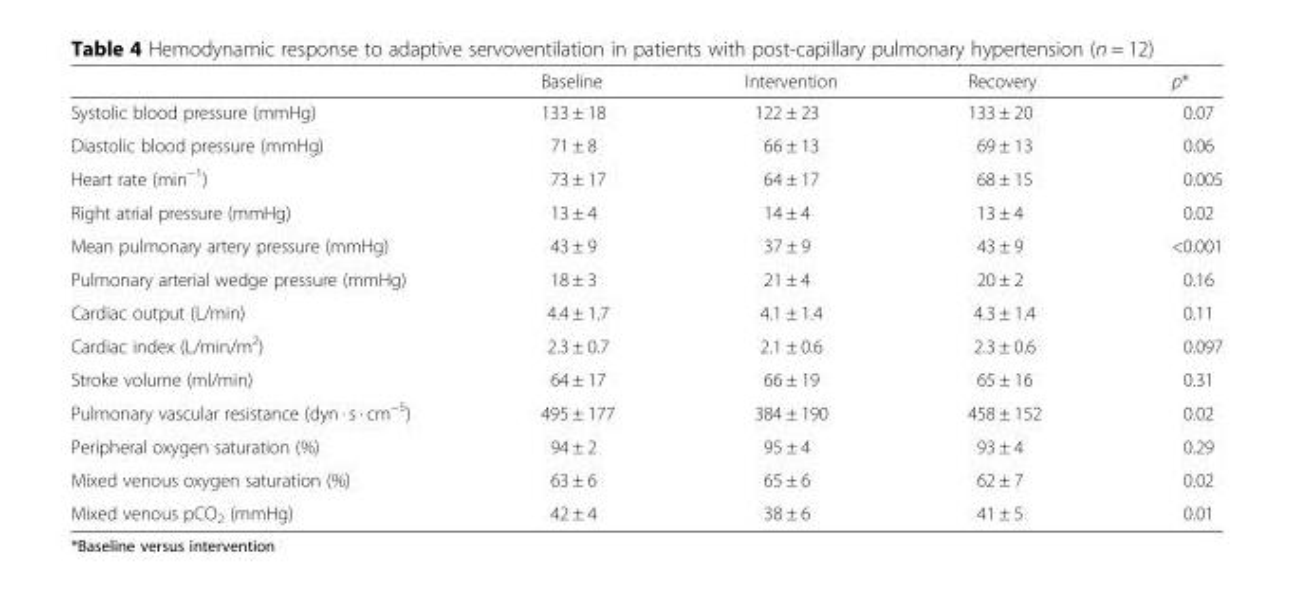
<table><thead><tr><td></td><td>Baseline</td><td>Intervention</td><td>Recovery</td><td>p*</td></tr></thead><tbody><tr><td>Systolic blood pressure (mmHg)</td><td>133 ± 18</td><td>122 ± 23</td><td>133 ± 20</td><td>0.07</td></tr><tr><td>Diastolic blood pressure (mmHg)</td><td>71 ± 8</td><td>66 ± 13</td><td>69 ± 13</td><td>0.06</td></tr><tr><td>Heart rate (min<sup>−1</sup>)</td><td>73 ± 17</td><td>64 ± 17</td><td>68 ± 15</td><td>0.005</td></tr><tr><td>Right atrial pressure (mmHg)</td><td>13 ± 4</td><td>14 ± 4</td><td>13 ± 4</td><td>0.02</td></tr><tr><td>Mean pulmonary artery pressure (mmHg)</td><td>43 ± 9</td><td>37 ± 9</td><td>43 ± 9</td><td>&lt;0.001</td></tr><tr><td>Pulmonary arterial wedge pressure (mmHg)</td><td>18 ± 3</td><td>21 ± 4</td><td>20 ± 2</td><td>0.16</td></tr><tr><td>Cardiac output (L/min)</td><td>4.4 ± 1.7</td><td>4.1 ± 1.4</td><td>4.3 ± 1.4</td><td>0.11</td></tr><tr><td>Cardiac index (L/min/m<sup>2</sup>)</td><td>2.3 ± 0.7</td><td>2.1 ± 0.6</td><td>2.3 ± 0.6</td><td>0.097</td></tr><tr><td>Stroke volume (ml/min)</td><td>64 ± 17</td><td>66 ± 19</td><td>65 ± 16</td><td>0.31</td></tr><tr><td>Pulmonary vascular resistance (dyn · s · cm<sup>−5</sup>)</td><td>495 ± 177</td><td>384 ± 190</td><td>458 ± 152</td><td>0.02</td></tr><tr><td>Peripheral oxygen saturation (%)</td><td>94 ± 2</td><td>95 ± 4</td><td>93 ± 4</td><td>0.29</td></tr><tr><td>Mixed venous oxygen saturation (%)</td><td>63 ± 6</td><td>65 ± 6</td><td>62 ± 7</td><td>0.02</td></tr><tr><td>Mixed venous pCO<sub>2</sub> (mmHg)</td><td>42 ± 4</td><td>38 ± 6</td><td>41 ± 5</td><td>0.01</td></tr></tbody></table>